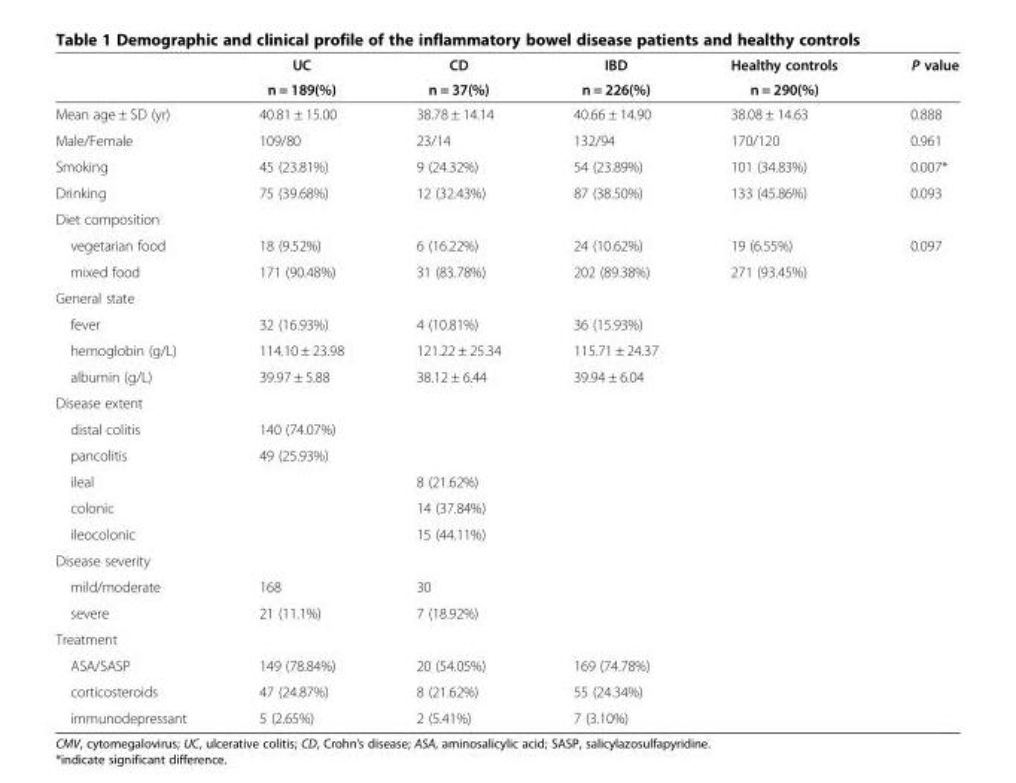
<table><thead><tr><td rowspan="2"></td><td rowspan="2">UC n = 189(%)</td><td rowspan="2">CD n = 37(%)</td><td rowspan="2">IBD n = 226(%)</td><td rowspan="2">Healthy controls n = 290(%)</td><td rowspan="2">P value</td></tr><tr></tr></thead><tbody><tr><td>Mean age ± SD (yr)</td><td>40.81 ± 15.00</td><td>38.78 ± 14.14</td><td>40.66 ± 14.90</td><td>38.08 ± 14.63</td><td>0.888</td></tr><tr><td>Male/Female</td><td>109/80</td><td>23/14</td><td>132/94</td><td>170/120</td><td>0.961</td></tr><tr><td>Smoking</td><td>45 (23.81%)</td><td>9 (24.32%)</td><td>54 (23.89%)</td><td>101 (34.83%)</td><td>0.007*</td></tr><tr><td>Drinking</td><td>75 (39.68%)</td><td>12 (32.43%)</td><td>87 (38.50%)</td><td>133 (45.86%)</td><td>0.093</td></tr><tr><td colspan="6">Diet composition</td></tr><tr><td>vegetarian food</td><td>18 (9.52%)</td><td>6 (16.22%)</td><td>24 (10.62%)</td><td>19 (6.55%)</td><td>0.097</td></tr><tr><td>mixed food</td><td>171 (90.48%)</td><td>31 (83.78%)</td><td>202 (89.38%)</td><td>271 (93.45%)</td><td></td></tr><tr><td colspan="6">General state</td></tr><tr><td>fever</td><td>32 (16.93%)</td><td>4 (10.81%)</td><td>36 (15.93%)</td><td></td><td></td></tr><tr><td>hemoglobin (g/L)</td><td>114.10 ± 23.98</td><td>121.22 ± 25.34</td><td>115.71 ± 24.37</td><td></td><td></td></tr><tr><td>albumin (g/L)</td><td>39.97 ± 5.88</td><td>38.12 ± 6.44</td><td>39.94 ± 6.04</td><td></td><td></td></tr><tr><td colspan="6">Disease extent</td></tr><tr><td>distal colitis</td><td>140 (74.07%)</td><td></td><td></td><td></td><td></td></tr><tr><td>pancolitis</td><td>49 (25.93%)</td><td></td><td></td><td></td><td></td></tr><tr><td>ileal</td><td></td><td>8 (21.62%)</td><td></td><td></td><td></td></tr><tr><td>colonic</td><td></td><td>14 (37.84%)</td><td></td><td></td><td></td></tr><tr><td>ileocolonic</td><td></td><td>15 (44.11%)</td><td></td><td></td><td></td></tr><tr><td colspan="6">Disease severity</td></tr><tr><td>mild/moderate</td><td>168</td><td>30</td><td></td><td></td><td></td></tr><tr><td>severe</td><td>21 (11.1%)</td><td>7 (18.92%)</td><td></td><td></td><td></td></tr><tr><td colspan="6">Treatment</td></tr><tr><td>ASA/SASP</td><td>149 (78.84%)</td><td>20 (54.05%)</td><td>169 (74.78%)</td><td></td><td></td></tr><tr><td>corticosteroids</td><td>47 (24.87%)</td><td>8 (21.62%)</td><td>55 (24.34%)</td><td></td><td></td></tr><tr><td>immunodepressant</td><td>5 (2.65%)</td><td>2 (5.41%)</td><td>7 (3.10%)</td><td></td><td></td></tr></tbody></table>